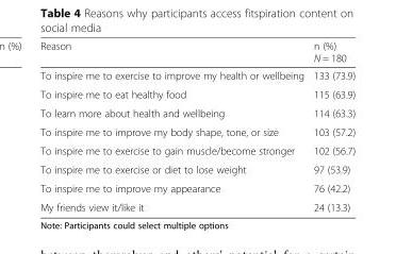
<table><thead><tr><td>Reason</td><td>n (%) N = 180</td></tr></thead><tbody><tr><td>To inspire me to exercise to improve my health or wellbeing</td><td>133 (73.9)</td></tr><tr><td>To inspire me to eat healthy food</td><td>115 (63.9)</td></tr><tr><td>To learn more about health and wellbeing</td><td>114 (63.3)</td></tr><tr><td>To inspire me to improve my body shape, tone, or size</td><td>103 (57.2)</td></tr><tr><td>To inspire me to exercise to gain muscle/become stronger</td><td>102 (56.7)</td></tr><tr><td>To inspire me to exercise or diet to lose weight</td><td>97 (53.9)</td></tr><tr><td>To inspire me to improve my appearance</td><td>76 (42.2)</td></tr><tr><td>My friends view it/like it</td><td>24 (13.3)</td></tr></tbody></table>